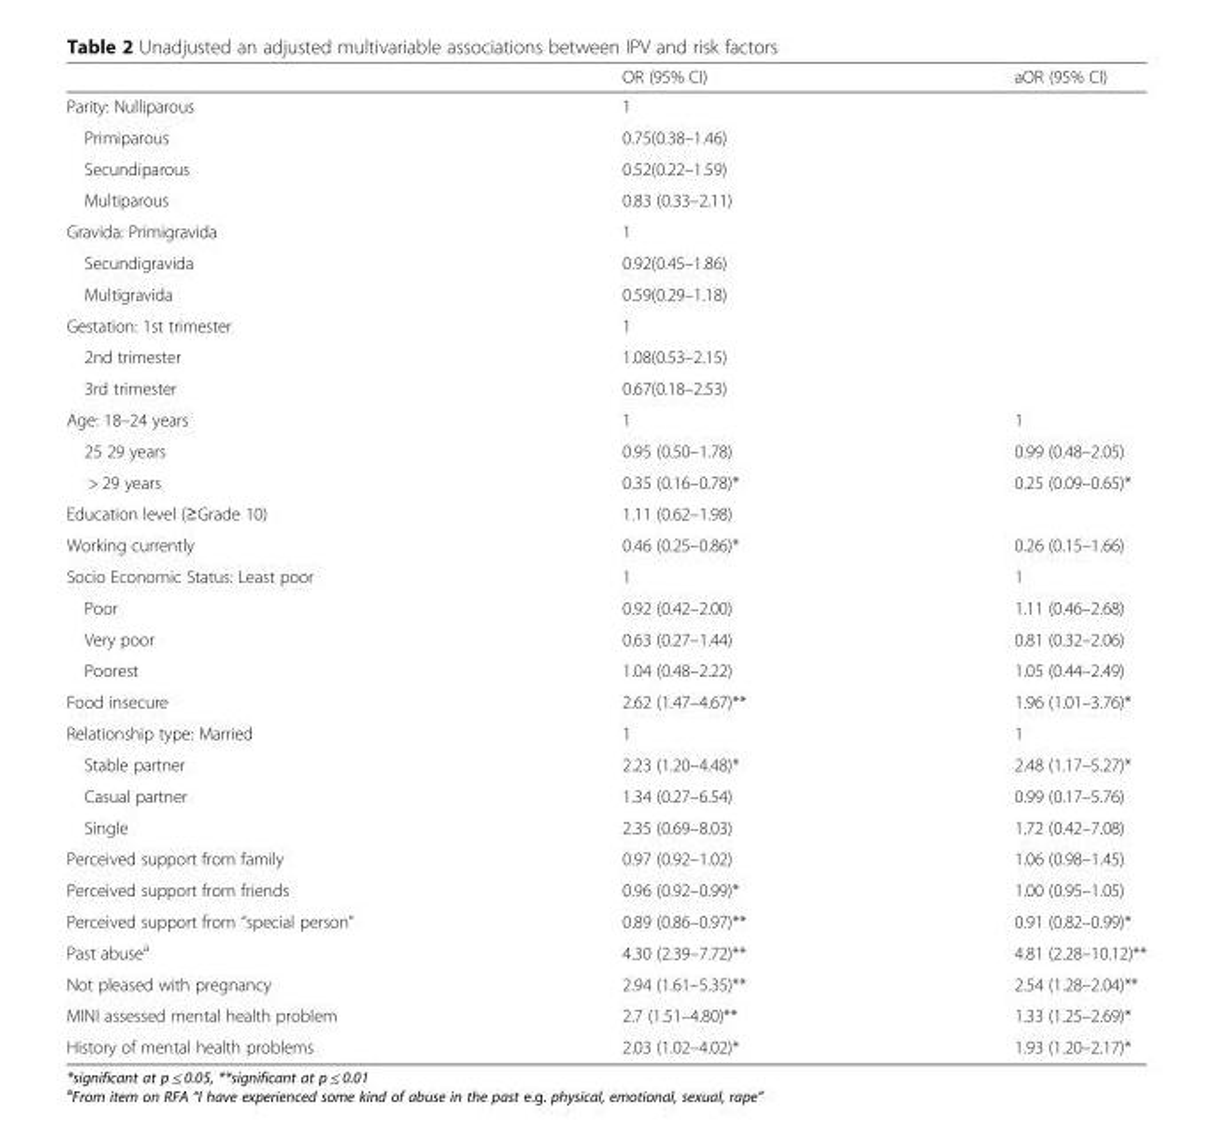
<table><thead><tr><td></td><td>OR (95% CI)</td><td>aOR (95% CI)</td></tr></thead><tbody><tr><td>Parity: Nulliparous</td><td>1</td><td></td></tr><tr><td>Primiparous</td><td>0.75(0.38–1.46)</td><td></td></tr><tr><td>Secundiparous</td><td>0.52(0.22–1.59)</td><td></td></tr><tr><td>Multiparous</td><td>0.83 (0.33–2.11)</td><td></td></tr><tr><td>Gravida: Primigravida</td><td>1</td><td></td></tr><tr><td>Secundigravida</td><td>0.92(0.45–1.86)</td><td></td></tr><tr><td>Multigravida</td><td>0.59(0.29–1.18)</td><td></td></tr><tr><td>Gestation: 1st trimester</td><td>1</td><td></td></tr><tr><td>2nd trimester</td><td>1.08(0.53–2.15)</td><td></td></tr><tr><td>3rd trimester</td><td>0.67(0.18–2.53)</td><td></td></tr><tr><td>Age: 18–24 years</td><td>1</td><td>1</td></tr><tr><td>25 29 years</td><td>0.95 (0.50–1.78)</td><td>0.99 (0.48–2.05)</td></tr><tr><td>&gt; 29 years</td><td>0.35 (0.16–0.78)*</td><td>0.25 (0.09–0.65)*</td></tr><tr><td>Education level (≥Grade 10)</td><td>1.11 (0.62–1.98)</td><td></td></tr><tr><td>Working currently</td><td>0.46 (0.25–0.86)*</td><td>0.26 (0.15–1.66)</td></tr><tr><td>Socio Economic Status: Least poor</td><td>1</td><td>1</td></tr><tr><td>Poor</td><td>0.92 (0.42–2.00)</td><td>1.11 (0.46–2.68)</td></tr><tr><td>Very poor</td><td>0.63 (0.27–1.44)</td><td>0.81 (0.32–2.06)</td></tr><tr><td>Poorest</td><td>1.04 (0.48–2.22)</td><td>1.05 (0.44–2.49)</td></tr><tr><td>Food insecure</td><td>2.62 (1.47–4.67)**</td><td>1.96 (1.01–3.76)*</td></tr><tr><td>Relationship type: Married</td><td>1</td><td>1</td></tr><tr><td>Stable partner</td><td>2.23 (1.20–4.48)*</td><td>2.48 (1.17–5.27)*</td></tr><tr><td>Casual partner</td><td>1.34 (0.27–6.54)</td><td>0.99 (0.17–5.76)</td></tr><tr><td>Single</td><td>2.35 (0.69–8.03)</td><td>1.72 (0.42–7.08)</td></tr><tr><td>Perceived support from family</td><td>0.97 (0.92–1.02)</td><td>1.06 (0.98–1.45)</td></tr><tr><td>Perceived support from friends</td><td>0.96 (0.92–0.99)*</td><td>1.00 (0.95–1.05)</td></tr><tr><td>Perceived support from “special person”</td><td>0.89 (0.86–0.97)**</td><td>0.91 (0.82–0.99)*</td></tr><tr><td>Past abuse<sup>a</sup></td><td>4.30 (2.39–7.72)**</td><td>4.81 (2.28–10.12)**</td></tr><tr><td>Not pleased with pregnancy</td><td>2.94 (1.61–5.35)**</td><td>2.54 (1.28–2.04)**</td></tr><tr><td>MINI assessed mental health problem</td><td>2.7 (1.51–4.80)**</td><td>1.33 (1.25–2.69)*</td></tr><tr><td>History of mental health problems</td><td>2.03 (1.02–4.02)*</td><td>1.93 (1.20–2.17)*</td></tr></tbody></table>